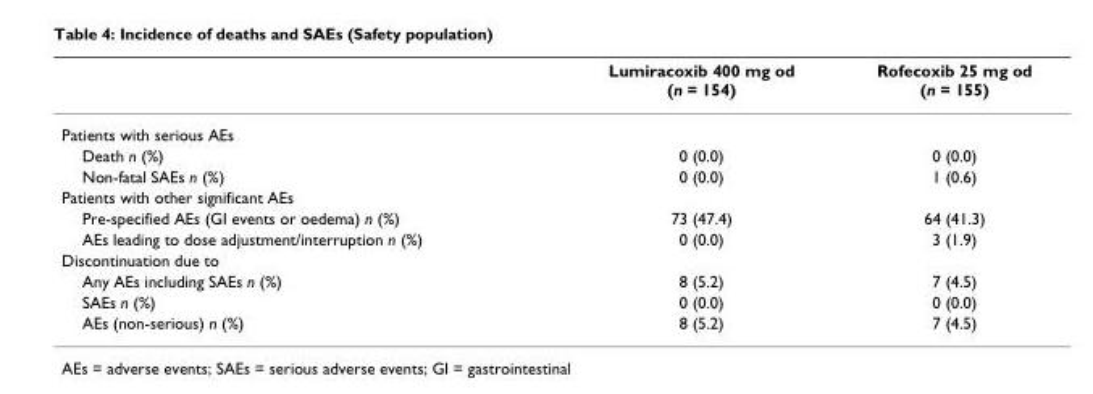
<table><thead><tr><td></td><td>Lumiracoxib 400 mg od (n = 154)</td><td>Rofecoxib 25 mg od (n = 155)</td></tr></thead><tbody><tr><td colspan="3">Patients with serious AEs</td></tr><tr><td>Death n (%)</td><td>0 (0.0)</td><td>0 (0.0)</td></tr><tr><td>Non-fatal SAEs n (%)</td><td>0 (0.0)</td><td>1 (0.6)</td></tr><tr><td colspan="3">Patients with other significant AEs</td></tr><tr><td>Pre-specified AEs (GI events or oedema) n (%)</td><td>73 (47.4)</td><td>64 (41.3)</td></tr><tr><td>AEs leading to dose adjustment/interruption n (%)</td><td>0 (0.0)</td><td>3 (1.9)</td></tr><tr><td colspan="3">Discontinuation due to</td></tr><tr><td>Any AEs including SAEs n (%)</td><td>8 (5.2)</td><td>7 (4.5)</td></tr><tr><td>SAEs n (%)</td><td>0 (0.0)</td><td>0 (0.0)</td></tr><tr><td>AEs (non-serious) n (%)</td><td>8 (5.2)</td><td>7 (4.5)</td></tr></tbody></table>